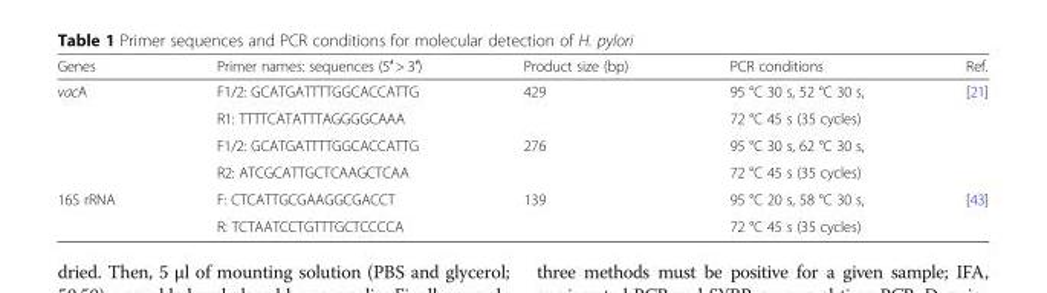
<table><thead><tr><td>Genes</td><td>Primer names: sequences (5′ &gt; 3′)</td><td>Product size (bp)</td><td>PCR conditions</td><td>Ref.</td></tr></thead><tbody><tr><td rowspan="4">vacA</td><td>F1/2: GCATGATTTTGGCACCATTG</td><td rowspan="2">429</td><td>95 °C 30 s, 52 °C 30 s,</td><td rowspan="4">[21]</td></tr><tr><td>R1: TTTTCATATTTAGGGGCAAA</td><td>72 °C 45 s (35 cycles)</td></tr><tr><td>F1/2: GCATGATTTTGGCACCATTG</td><td rowspan="2">276</td><td>95 °C 30 s, 62 °C 30 s,</td></tr><tr><td>R2: ATCGCATTGCTCAAGCTCAA</td><td>72 °C 45 s (35 cycles)</td></tr><tr><td rowspan="2">16S rRNA</td><td>F: CTCATTGCGAAGGCGACCT</td><td rowspan="2">139</td><td>95 °C 20 s, 58 °C 30 s,</td><td rowspan="2">[43]</td></tr><tr><td>R: TCTAATCCTGTTTGCTCCCCA</td><td>72 °C 45 s (35 cycles)</td></tr></tbody></table>